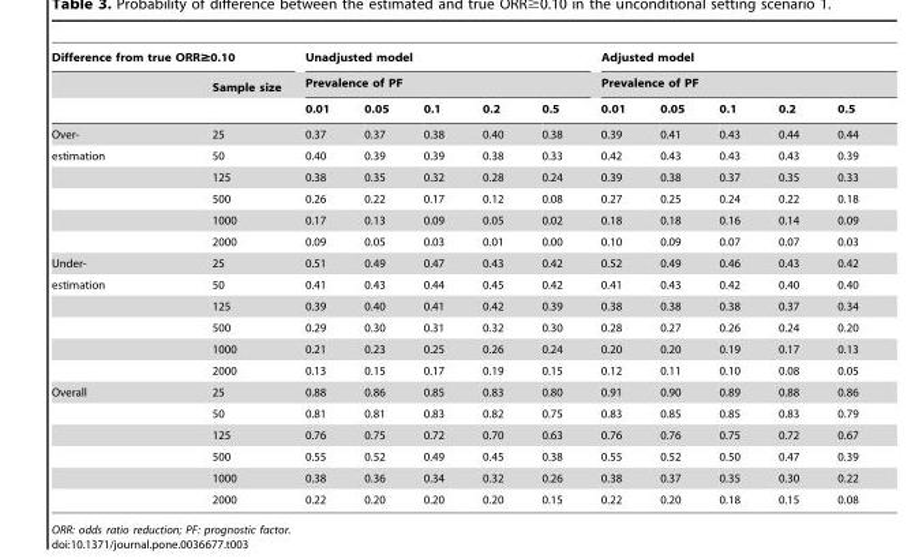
<table><thead><tr><td colspan="2">Difference from true ORR≥0.10</td><td rowspan="2" colspan="5">Unadjusted model Prevalence of PF</td><td rowspan="2" colspan="5">Adjusted model Prevalence of PF</td></tr><tr><td rowspan="2"></td><td rowspan="2">Sample size</td></tr><tr><td>0.01</td><td>0.05</td><td>0.1</td><td>0.2</td><td>0.5</td><td>0.01</td><td>0.05</td><td>0.1</td><td>0.2</td><td>0.5</td></tr></thead><tbody><tr><td>Over-</td><td>25</td><td>0.37</td><td>0.37</td><td>0.38</td><td>0.40</td><td>0.38</td><td>0.39</td><td>0.41</td><td>0.43</td><td>0.44</td><td>0.44</td></tr><tr><td rowspan="5">estimation</td><td>50</td><td>0.40</td><td>0.39</td><td>0.39</td><td>0.38</td><td>0.33</td><td>0.42</td><td>0.43</td><td>0.43</td><td>0.43</td><td>0.39</td></tr><tr><td>125</td><td>0.38</td><td>0.35</td><td>0.32</td><td>0.28</td><td>0.24</td><td>0.39</td><td>0.38</td><td>0.37</td><td>0.35</td><td>0.33</td></tr><tr><td>500</td><td>0.26</td><td>0.22</td><td>0.17</td><td>0.12</td><td>0.08</td><td>0.27</td><td>0.25</td><td>0.24</td><td>0.22</td><td>0.18</td></tr><tr><td>1000</td><td>0.17</td><td>0.13</td><td>0.09</td><td>0.05</td><td>0.02</td><td>0.18</td><td>0.18</td><td>0.16</td><td>0.14</td><td>0.09</td></tr><tr><td>2000</td><td>0.09</td><td>0.05</td><td>0.03</td><td>0.01</td><td>0.00</td><td>0.10</td><td>0.09</td><td>0.07</td><td>0.07</td><td>0.03</td></tr><tr><td>Under-</td><td>25</td><td>0.51</td><td>0.49</td><td>0.47</td><td>0.43</td><td>0.42</td><td>0.52</td><td>0.49</td><td>0.46</td><td>0.43</td><td>0.42</td></tr><tr><td rowspan="5">estimation</td><td>50</td><td>0.41</td><td>0.43</td><td>0.44</td><td>0.45</td><td>0.42</td><td>0.41</td><td>0.43</td><td>0.42</td><td>0.40</td><td>0.40</td></tr><tr><td>125</td><td>0.39</td><td>0.40</td><td>0.41</td><td>0.42</td><td>0.39</td><td>0.38</td><td>0.38</td><td>0.38</td><td>0.37</td><td>0.34</td></tr><tr><td>500</td><td>0.29</td><td>0.30</td><td>0.31</td><td>0.32</td><td>0.30</td><td>0.28</td><td>0.27</td><td>0.26</td><td>0.24</td><td>0.20</td></tr><tr><td>1000</td><td>0.21</td><td>0.23</td><td>0.25</td><td>0.26</td><td>0.24</td><td>0.20</td><td>0.20</td><td>0.19</td><td>0.17</td><td>0.13</td></tr><tr><td>2000</td><td>0.13</td><td>0.15</td><td>0.17</td><td>0.19</td><td>0.15</td><td>0.12</td><td>0.11</td><td>0.10</td><td>0.08</td><td>0.05</td></tr><tr><td rowspan="6">Overall</td><td>25</td><td>0.88</td><td>0.86</td><td>0.85</td><td>0.83</td><td>0.80</td><td>0.91</td><td>0.90</td><td>0.89</td><td>0.88</td><td>0.86</td></tr><tr><td>50</td><td>0.81</td><td>0.81</td><td>0.83</td><td>0.82</td><td>0.75</td><td>0.83</td><td>0.85</td><td>0.85</td><td>0.83</td><td>0.79</td></tr><tr><td>125</td><td>0.76</td><td>0.75</td><td>0.72</td><td>0.70</td><td>0.63</td><td>0.76</td><td>0.76</td><td>0.75</td><td>0.72</td><td>0.67</td></tr><tr><td>500</td><td>0.55</td><td>0.52</td><td>0.49</td><td>0.45</td><td>0.38</td><td>0.55</td><td>0.52</td><td>0.50</td><td>0.47</td><td>0.39</td></tr><tr><td>1000</td><td>0.38</td><td>0.36</td><td>0.34</td><td>0.32</td><td>0.26</td><td>0.38</td><td>0.37</td><td>0.35</td><td>0.30</td><td>0.22</td></tr><tr><td>2000</td><td>0.22</td><td>0.20</td><td>0.20</td><td>0.20</td><td>0.15</td><td>0.22</td><td>0.20</td><td>0.18</td><td>0.15</td><td>0.08</td></tr></tbody></table>